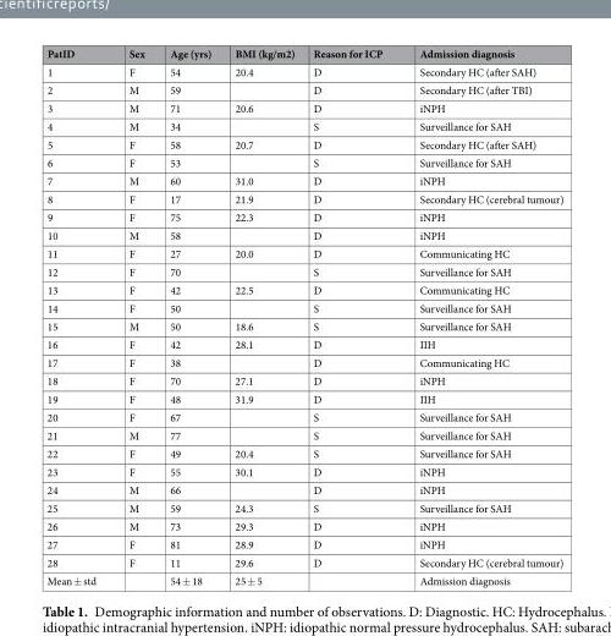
<table><thead><tr><td>PatID</td><td>Sex</td><td>Age (yrs)</td><td>BMI (kg/m2)</td><td>Reason for ICP</td><td>Admission diagnosis</td></tr></thead><tbody><tr><td>1</td><td>F</td><td>54</td><td>20.4</td><td>D</td><td>Secondary HC (after SAH)</td></tr><tr><td>2</td><td>M</td><td>59</td><td></td><td>D</td><td>Secondary HC (after TBI)</td></tr><tr><td>3</td><td>M</td><td>71</td><td>20.6</td><td>D</td><td>iNPH</td></tr><tr><td>4</td><td>M</td><td>34</td><td></td><td>S</td><td>Surveillance for SAH</td></tr><tr><td>5</td><td>F</td><td>58</td><td>20.7</td><td>D</td><td>Secondary HC (after SAH)</td></tr><tr><td>6</td><td>F</td><td>53</td><td></td><td>S</td><td>Surveillance for SAH</td></tr><tr><td>7</td><td>M</td><td>60</td><td>31.0</td><td>D</td><td>iNPH</td></tr><tr><td>8</td><td>F</td><td>17</td><td>21.9</td><td>D</td><td>Secondary HC (cerebral tumour)</td></tr><tr><td>9</td><td>F</td><td>75</td><td>22.3</td><td>D</td><td>iNPH</td></tr><tr><td>10</td><td>M</td><td>58</td><td></td><td>D</td><td>iNPH</td></tr><tr><td>11</td><td>F</td><td>27</td><td>20.0</td><td>D</td><td>Communicating HC</td></tr><tr><td>12</td><td>F</td><td>70</td><td></td><td>S</td><td>Surveillance for SAH</td></tr><tr><td>13</td><td>F</td><td>42</td><td>22.5</td><td>D</td><td>Communicating HC</td></tr><tr><td>14</td><td>F</td><td>50</td><td></td><td>S</td><td>Surveillance for SAH</td></tr><tr><td>15</td><td>M</td><td>50</td><td>18.6</td><td>S</td><td>Surveillance for SAH</td></tr><tr><td>16</td><td>F</td><td>42</td><td>28.1</td><td>D</td><td>IIH</td></tr><tr><td>17</td><td>F</td><td>38</td><td></td><td>D</td><td>Communicating HC</td></tr><tr><td>18</td><td>F</td><td>70</td><td>27.1</td><td>D</td><td>iNPH</td></tr><tr><td>19</td><td>F</td><td>48</td><td>31.9</td><td>D</td><td>IIH</td></tr><tr><td>20</td><td>F</td><td>67</td><td></td><td>S</td><td>Surveillance for SAH</td></tr><tr><td>21</td><td>M</td><td>77</td><td></td><td>S</td><td>Surveillance for SAH</td></tr><tr><td>22</td><td>F</td><td>49</td><td>20.4</td><td>S</td><td>Surveillance for SAH</td></tr><tr><td>23</td><td>F</td><td>55</td><td>30.1</td><td>D</td><td>iNPH</td></tr><tr><td>24</td><td>M</td><td>66</td><td></td><td>D</td><td>iNPH</td></tr><tr><td>25</td><td>M</td><td>59</td><td>24.3</td><td>S</td><td>Surveillance for SAH</td></tr><tr><td>26</td><td>M</td><td>73</td><td>29.3</td><td>D</td><td>iNPH</td></tr><tr><td>27</td><td>F</td><td>81</td><td>28.9</td><td>D</td><td>iNPH</td></tr><tr><td>28</td><td>F</td><td>11</td><td>29.6</td><td>D</td><td>Secondary HC (cerebral tumour)</td></tr><tr><td>Mean ± std</td><td></td><td>54 ± 18</td><td>25 ± 5</td><td></td><td>Admission diagnosis</td></tr></tbody></table>